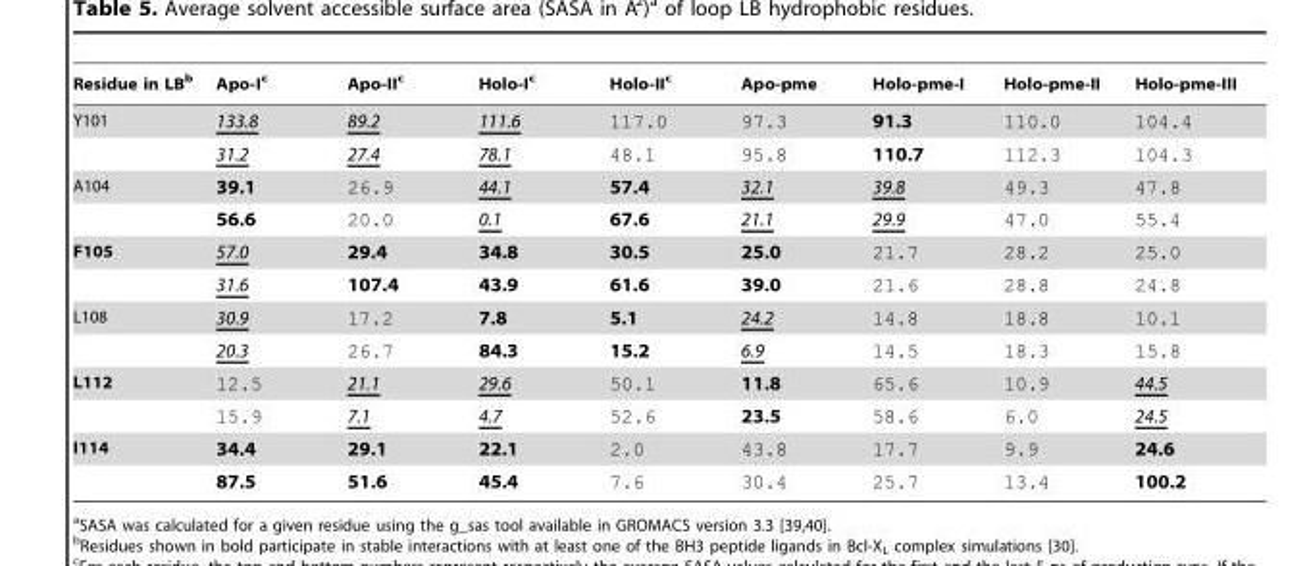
<table><thead><tr><td>Residue in LB<sup>b</sup></td><td>Apo-I<sup>c</sup></td><td>Apo-II<sup>c</sup></td><td>Holo-I<sup>c</sup></td><td>Holo-II<sup>c</sup></td><td>Apo-pme</td><td>Holo-pme-I</td><td>Holo-pme-II</td><td>Holo-pme-III</td></tr></thead><tbody><tr><td rowspan="2">Y101</td><td>133.8</td><td>89.2</td><td>111.6</td><td>117.0</td><td>97.3</td><td>91.3</td><td>110.0</td><td>104.4</td></tr><tr><td>31.2</td><td>27.4</td><td>78.1</td><td>48.1</td><td>95.8</td><td>110.7</td><td>112.3</td><td>104.3</td></tr><tr><td rowspan="2">A104</td><td>39.1</td><td>26.9</td><td>44.1</td><td>57.4</td><td>32.1</td><td>39.8</td><td>49.3</td><td>47.8</td></tr><tr><td>56.6</td><td>20.0</td><td>0.1</td><td>67.6</td><td>21.1</td><td>29.9</td><td>47.0</td><td>55.4</td></tr><tr><td rowspan="2">F105</td><td>57.0</td><td>29.4</td><td>34.8</td><td>30.5</td><td>25.0</td><td>21.7</td><td>28.2</td><td>25.0</td></tr><tr><td>31.6</td><td>107.4</td><td>43.9</td><td>61.6</td><td>39.0</td><td>21.6</td><td>28.8</td><td>24.8</td></tr><tr><td rowspan="2">L108</td><td>30.9</td><td>17.2</td><td>7.8</td><td>5.1</td><td>24.2</td><td>14.8</td><td>18.8</td><td>10.1</td></tr><tr><td>20.3</td><td>26.7</td><td>84.3</td><td>15.2</td><td>6.9</td><td>14.5</td><td>18.3</td><td>15.8</td></tr><tr><td rowspan="2">L112</td><td>12.5</td><td>21.1</td><td>29.6</td><td>50.1</td><td>11.8</td><td>65.6</td><td>10.9</td><td>44.5</td></tr><tr><td>15.9</td><td>7.1</td><td>4.7</td><td>52.6</td><td>23.5</td><td>58.6</td><td>6.0</td><td>24.5</td></tr><tr><td rowspan="2">I114</td><td>34.4</td><td>29.1</td><td>22.1</td><td>2.0</td><td>43.8</td><td>17.7</td><td>9.9</td><td>24.6</td></tr><tr><td>87.5</td><td>51.6</td><td>45.4</td><td>7.6</td><td>30.4</td><td>25.7</td><td>13.4</td><td>100.2</td></tr></tbody></table>